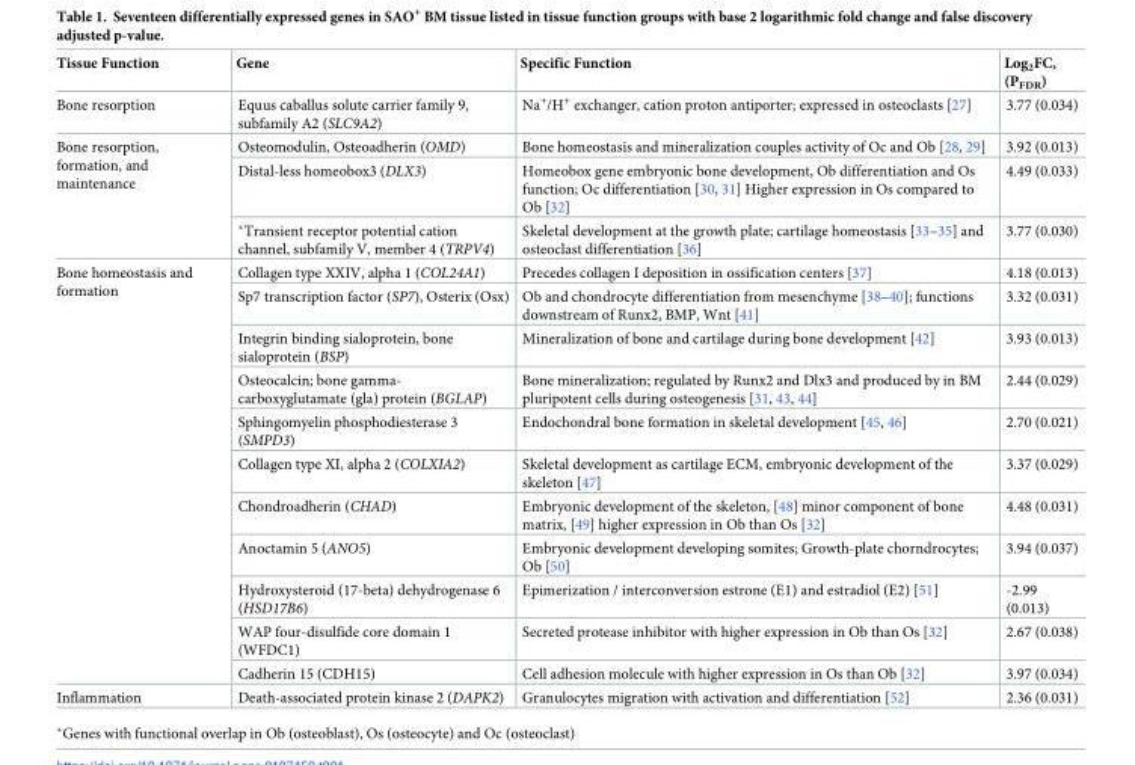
<table><thead><tr><td>Tissue Function</td><td>Gene</td><td>Specific Function</td><td>Log<sub>2</sub>FC, (P<sub>FDR</sub>)</td></tr></thead><tbody><tr><td>Bone resorption</td><td>Equus caballus solute carrier family 9, subfamily A2 (SLC9A2)</td><td>Na<sup>+</sup>/H<sup>+</sup> exchanger, cation proton antiporter; expressed in osteoclasts [27]</td><td>3.77 (0.034)</td></tr><tr><td rowspan="3">Bone resorption, formation, and maintenance</td><td>Osteomodulin, Osteoadherin (OMD)</td><td>Bone homeostasis and mineralization couples activity of Oc and Ob [28, 29]</td><td>3.92 (0.013)</td></tr><tr><td>Distal-less homeobox3 (DLX3)</td><td>Homeobox gene embryonic bone development, Ob differentiation and Os function; Oc differentiation [30, 31] Higher expression in Os compared to Ob [32]</td><td>4.49 (0.033)</td></tr><tr><td>*Transient receptor potential cation channel, subfamily V, member 4 (TRPV4)</td><td>Skeletal development at the growth plate; cartilage homeostasis [33–35] and osteoclast differentiation [36]</td><td>3.77 (0.030)</td></tr><tr><td rowspan="11">Bone homeostasis and formation</td><td>Collagen type XXIV, alpha 1 (COL24A1)</td><td>Precedes collagen I deposition in ossification centers [37]</td><td>4.18 (0.013)</td></tr><tr><td>Sp7 transcription factor (SP7), Osterix (Osx)</td><td>Ob and chondrocyte differentiation from mesenchyme [38–40]; functions downstream of Runx2, BMP, Wnt [41]</td><td>3.32 (0.031)</td></tr><tr><td>Integrin binding sialoprotein, bone sialoprotein (BSP)</td><td>Mineralization of bone and cartilage during bone development [42]</td><td>3.93 (0.013)</td></tr><tr><td>Osteocalcin; bone gamma- carboxyglutamate (gla) protein (BGLAP)</td><td>Bone mineralization; regulated by Runx2 and Dlx3 and produced by in BM pluripotent cells during osteogenesis [31, 43, 44]</td><td>2.44 (0.029)</td></tr><tr><td>Sphingomyelin phosphodiesterase 3 (SMPD3)</td><td>Endochondral bone formation in skeletal development [45, 46]</td><td>2.70 (0.021)</td></tr><tr><td>Collagen type XI, alpha 2 (COLXIA2)</td><td>Skeletal development as cartilage ECM, embryonic development of the skeleton [47]</td><td>3.37 (0.029)</td></tr><tr><td>Chondroadherin (CHAD)</td><td>Embryonic development of the skeleton, [48] minor component of bone matrix, [49] higher expression in Ob than Os [32]</td><td>4.48 (0.031)</td></tr><tr><td>Anoctamin 5 (ANO5)</td><td>Embryonic development developing somites; Growth-plate chorndrocytes; Ob [50]</td><td>3.94 (0.037)</td></tr><tr><td>Hydroxysteroid (17-beta) dehydrogenase 6 (HSD17B6)</td><td>Epimerization / interconversion estrone (E1) and estradiol (E2) [51]</td><td>-2.99 (0.013)</td></tr><tr><td>WAP four-disulfide core domain 1 (WFDC1)</td><td>Secreted protease inhibitor with higher expression in Ob than Os [32]</td><td>2.67 (0.038)</td></tr><tr><td>Cadherin 15 (CDH15)</td><td>Cell adhesion molecule with higher expression in Os than Ob [32]</td><td>3.97 (0.034)</td></tr><tr><td>Inflammation</td><td>Death-associated protein kinase 2 (DAPK2)</td><td>Granulocytes migration with activation and differentiation [52]</td><td>2.36 (0.031)</td></tr></tbody></table>